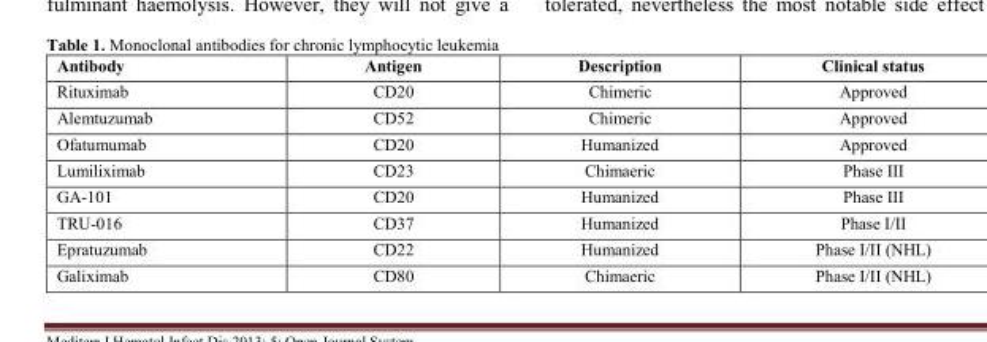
<table><thead><tr><td>Antibody</td><td>Antigen</td><td>Description</td><td>Clinical status</td></tr></thead><tbody><tr><td>Rituximab</td><td>CD20</td><td>Chimeric</td><td>Approved</td></tr><tr><td>Alemtuzumab</td><td>CD52</td><td>Chimeric</td><td>Approved</td></tr><tr><td>Ofatumumab</td><td>CD20</td><td>Humanized</td><td>Approved</td></tr><tr><td>Lumiliximab</td><td>CD23</td><td>Chimaeric</td><td>Phase III</td></tr><tr><td>GA-101</td><td>CD20</td><td>Humanized</td><td>Phase III</td></tr><tr><td>TRU-016</td><td>CD37</td><td>Humanized</td><td>Phase I/II</td></tr><tr><td>Epratuzumab</td><td>CD22</td><td>Humanized</td><td>Phase I/II (NHL)</td></tr><tr><td>Galiximab</td><td>CD80</td><td>Chimaeric</td><td>Phase I/II (NHL)</td></tr></tbody></table>